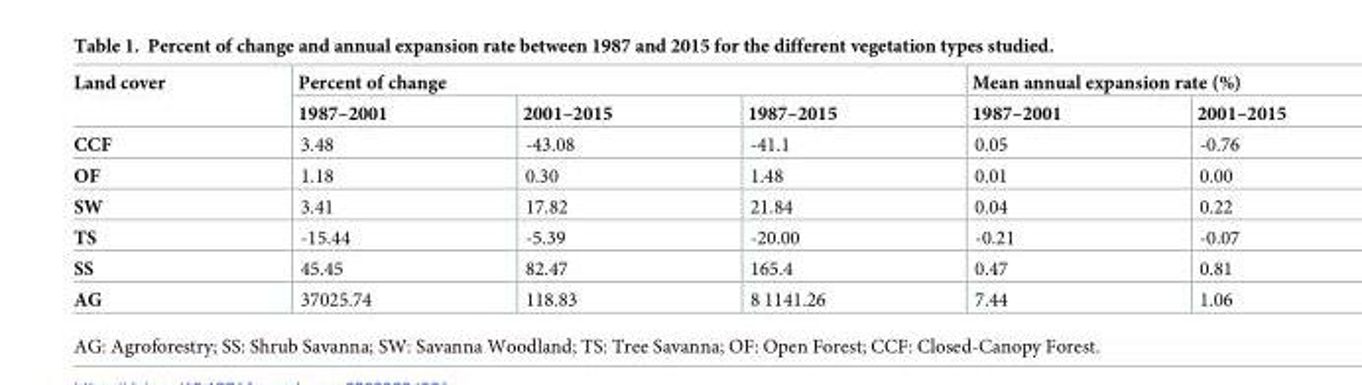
<table><thead><tr><td rowspan="2">Land cover</td><td colspan="3">Percent of change</td><td colspan="2">Mean annual expansion rate (%)</td></tr><tr><td>1987–2001</td><td>2001–2015</td><td>1987–2015</td><td>1987–2001</td><td>2001–2015</td></tr></thead><tbody><tr><td>CCF</td><td>3.48</td><td>-43.08</td><td>-41.1</td><td>0.05</td><td>-0.76</td></tr><tr><td>OF</td><td>1.18</td><td>0.30</td><td>1.48</td><td>0.01</td><td>0.00</td></tr><tr><td>SW</td><td>3.41</td><td>17.82</td><td>21.84</td><td>0.04</td><td>0.22</td></tr><tr><td>TS</td><td>-15.44</td><td>-5.39</td><td>-20.00</td><td>-0.21</td><td>-0.07</td></tr><tr><td>SS</td><td>45.45</td><td>82.47</td><td>165.4</td><td>0.47</td><td>0.81</td></tr><tr><td>AG</td><td>37025.74</td><td>118.83</td><td>8 1141.26</td><td>7.44</td><td>1.06</td></tr></tbody></table>